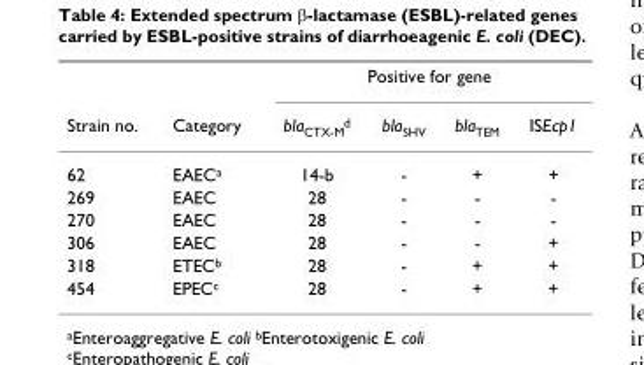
<table><thead><tr><td rowspan="2">Strain no.</td><td rowspan="2">Category</td><td colspan="4">Positive for gene</td></tr><tr><td>bla<sub>CTX-M</sub><sup>d</sup></td><td>bla<sub>SHV</sub></td><td>bla<sub>TEM</sub></td><td>ISEcp1</td></tr></thead><tbody><tr><td>62</td><td>EAEC<sup>a</sup></td><td>14-b</td><td>-</td><td>+</td><td>+</td></tr><tr><td>269</td><td>EAEC</td><td>28</td><td>-</td><td>-</td><td>-</td></tr><tr><td>270</td><td>EAEC</td><td>28</td><td>-</td><td>-</td><td>-</td></tr><tr><td>306</td><td>EAEC</td><td>28</td><td>-</td><td>-</td><td>+</td></tr><tr><td>318</td><td>ETEC<sup>b</sup></td><td>28</td><td>-</td><td>+</td><td>+</td></tr><tr><td>454</td><td>EPEC<sup>c</sup></td><td>28</td><td>-</td><td>+</td><td>+</td></tr></tbody></table>